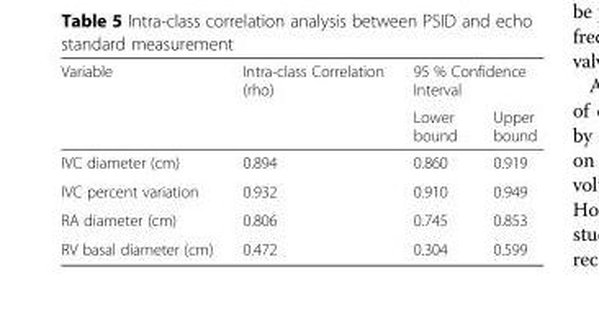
<table><thead><tr><td rowspan="2">Variable</td><td rowspan="2">Intra-class Correlation (rho)</td><td colspan="2">95 % Confidence Interval</td></tr><tr><td>Lower bound</td><td>Upper bound</td></tr></thead><tbody><tr><td>IVC diameter (cm)</td><td>0.894</td><td>0.860</td><td>0.919</td></tr><tr><td>IVC percent variation</td><td>0.932</td><td>0.910</td><td>0.949</td></tr><tr><td>RA diameter (cm)</td><td>0.806</td><td>0.745</td><td>0.853</td></tr><tr><td>RV basal diameter (cm)</td><td>0.472</td><td>0.304</td><td>0.599</td></tr></tbody></table>